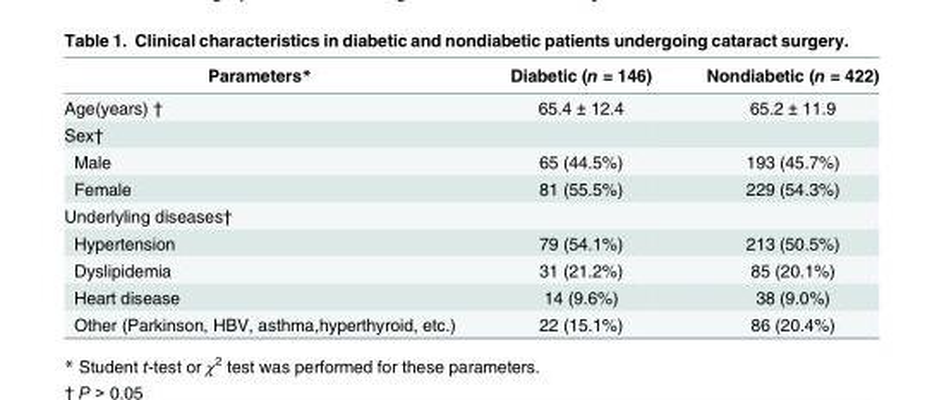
<table><thead><tr><td>Parameters*</td><td>Diabetic (n = 146)</td><td>Nondiabetic (n = 422)</td></tr></thead><tbody><tr><td>Age(years) †</td><td>65.4 ± 12.4</td><td>65.2 ± 11.9</td></tr><tr><td colspan="3">Sex†</td></tr><tr><td>Male</td><td>65 (44.5%)</td><td>193 (45.7%)</td></tr><tr><td>Female</td><td>81 (55.5%)</td><td>229 (54.3%)</td></tr><tr><td colspan="3">Underlyling diseases†</td></tr><tr><td>Hypertension</td><td>79 (54.1%)</td><td>213 (50.5%)</td></tr><tr><td>Dyslipidemia</td><td>31 (21.2%)</td><td>85 (20.1%)</td></tr><tr><td>Heart disease</td><td>14 (9.6%)</td><td>38 (9.0%)</td></tr><tr><td>Other (Parkinson, HBV, asthma,hyperthyroid, etc.)</td><td>22 (15.1%)</td><td>86 (20.4%)</td></tr></tbody></table>